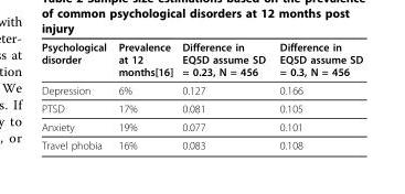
<table><thead><tr><td>Psychological disorder</td><td>Prevalence at 12 months[16]</td><td>Difference in EQ5D assume SD = 0.23, N = 456</td><td>Difference in EQ5D assume SD = 0.3, N = 456</td></tr></thead><tbody><tr><td>Depression</td><td>6%</td><td>0.127</td><td>0.166</td></tr><tr><td>PTSD</td><td>17%</td><td>0.081</td><td>0.105</td></tr><tr><td>Anxiety</td><td>19%</td><td>0.077</td><td>0.101</td></tr><tr><td>Travel phobia</td><td>16%</td><td>0.083</td><td>0.108</td></tr></tbody></table>